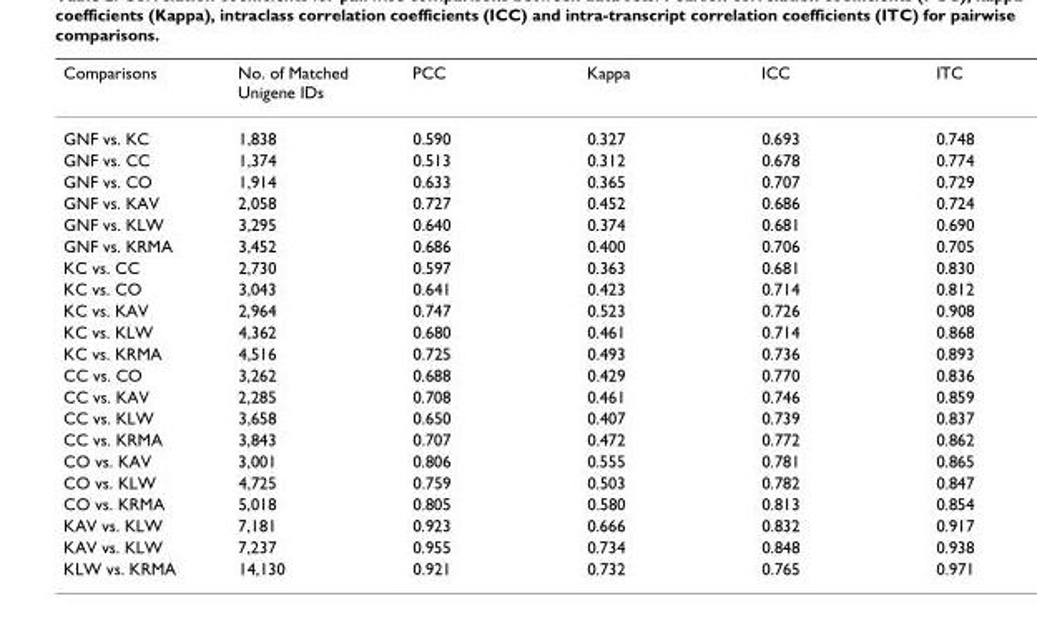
<table><thead><tr><td>Comparisons</td><td>No. of Matched Unigene IDs</td><td>PCC</td><td>Kappa</td><td>ICC</td><td>ITC</td></tr></thead><tbody><tr><td>GNF vs. KC</td><td>1,838</td><td>0.590</td><td>0.327</td><td>0.693</td><td>0.748</td></tr><tr><td>GNF vs. CC</td><td>1,374</td><td>0.513</td><td>0.312</td><td>0.678</td><td>0.774</td></tr><tr><td>GNF vs. CO</td><td>1,914</td><td>0.633</td><td>0.365</td><td>0.707</td><td>0.729</td></tr><tr><td>GNF vs. KAV</td><td>2,058</td><td>0.727</td><td>0.452</td><td>0.686</td><td>0.724</td></tr><tr><td>GNF vs. KLW</td><td>3,295</td><td>0.640</td><td>0.374</td><td>0.681</td><td>0.690</td></tr><tr><td>GNF vs. KRMA</td><td>3,452</td><td>0.686</td><td>0.400</td><td>0.706</td><td>0.705</td></tr><tr><td>KC vs. CC</td><td>2,730</td><td>0.597</td><td>0.363</td><td>0.681</td><td>0.830</td></tr><tr><td>KC vs. CO</td><td>3,043</td><td>0.641</td><td>0.423</td><td>0.714</td><td>0.812</td></tr><tr><td>KC vs. KAV</td><td>2,964</td><td>0.747</td><td>0.523</td><td>0.726</td><td>0.908</td></tr><tr><td>KC vs. KLW</td><td>4,362</td><td>0.680</td><td>0.461</td><td>0.714</td><td>0.868</td></tr><tr><td>KC vs. KRMA</td><td>4,516</td><td>0.725</td><td>0.493</td><td>0.736</td><td>0.893</td></tr><tr><td>CC vs. CO</td><td>3,262</td><td>0.688</td><td>0.429</td><td>0.770</td><td>0.836</td></tr><tr><td>CC vs. KAV</td><td>2,285</td><td>0.708</td><td>0.461</td><td>0.746</td><td>0.859</td></tr><tr><td>CC vs. KLW</td><td>3,658</td><td>0.650</td><td>0.407</td><td>0.739</td><td>0.837</td></tr><tr><td>CC vs. KRMA</td><td>3,843</td><td>0.707</td><td>0.472</td><td>0.772</td><td>0.862</td></tr><tr><td>CO vs. KAV</td><td>3,001</td><td>0.806</td><td>0.555</td><td>0.781</td><td>0.865</td></tr><tr><td>CO vs. KLW</td><td>4,725</td><td>0.759</td><td>0.503</td><td>0.782</td><td>0.847</td></tr><tr><td>CO vs. KRMA</td><td>5,018</td><td>0.805</td><td>0.580</td><td>0.813</td><td>0.854</td></tr><tr><td>KAV vs. KLW</td><td>7,181</td><td>0.923</td><td>0.666</td><td>0.832</td><td>0.917</td></tr><tr><td>KAV vs. KLW</td><td>7,237</td><td>0.955</td><td>0.734</td><td>0.848</td><td>0.938</td></tr><tr><td>KLW vs. KRMA</td><td>14,130</td><td>0.921</td><td>0.732</td><td>0.765</td><td>0.971</td></tr></tbody></table>